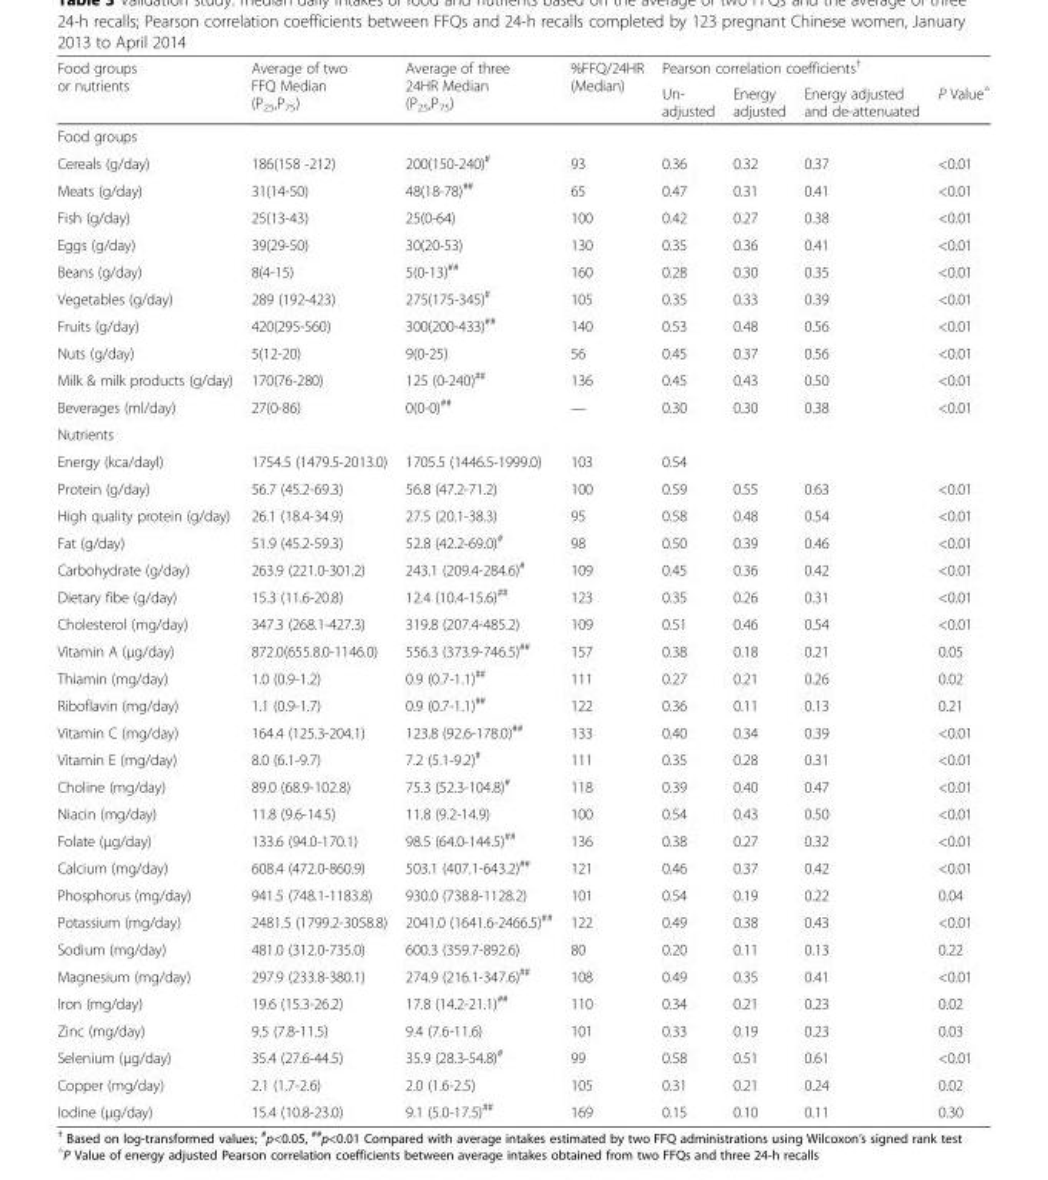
<table><thead><tr><td rowspan="2">Food groups or nutrients</td><td rowspan="2">Average of two FFQ Median (P<sub>25</sub>,P<sub>75</sub>)</td><td rowspan="2">Average of three 24HR Median (P<sub>25</sub>,P<sub>75</sub>)</td><td rowspan="2">%FFQ/24HR (Median)</td><td colspan="3">Pearson correlation coefficients<sup>†</sup></td><td rowspan="2">P Value<sup>△</sup></td></tr><tr><td>Un- adjusted</td><td>Energy adjusted</td><td>Energy adjusted and de-attenuated</td></tr></thead><tbody><tr><td colspan="8">Food groups</td></tr><tr><td>Cereals (g/day)</td><td>186(158 -212)</td><td>200(150-240)<sup>#</sup></td><td>93</td><td>0.36</td><td>0.32</td><td>0.37</td><td>&lt;0.01</td></tr><tr><td>Meats (g/day)</td><td>31(14-50)</td><td>48(18-78)<sup>##</sup></td><td>65</td><td>0.47</td><td>0.31</td><td>0.41</td><td>&lt;0.01</td></tr><tr><td>Fish (g/day)</td><td>25(13-43)</td><td>25(0-64)</td><td>100</td><td>0.42</td><td>0.27</td><td>0.38</td><td>&lt;0.01</td></tr><tr><td>Eggs (g/day)</td><td>39(29-50)</td><td>30(20-53)</td><td>130</td><td>0.35</td><td>0.36</td><td>0.41</td><td>&lt;0.01</td></tr><tr><td>Beans (g/day)</td><td>8(4-15)</td><td>5(0-13)<sup>##</sup></td><td>160</td><td>0.28</td><td>0.30</td><td>0.35</td><td>&lt;0.01</td></tr><tr><td>Vegetables (g/day)</td><td>289 (192-423)</td><td>275(175-345)<sup>#</sup></td><td>105</td><td>0.35</td><td>0.33</td><td>0.39</td><td>&lt;0.01</td></tr><tr><td>Fruits (g/day)</td><td>420(295-560)</td><td>300(200-433)<sup>##</sup></td><td>140</td><td>0.53</td><td>0.48</td><td>0.56</td><td>&lt;0.01</td></tr><tr><td>Nuts (g/day)</td><td>5(12-20)</td><td>9(0-25)</td><td>56</td><td>0.45</td><td>0.37</td><td>0.56</td><td>&lt;0.01</td></tr><tr><td>Milk &amp; milk products (g/day)</td><td>170(76-280)</td><td>125 (0-240)<sup>##</sup></td><td>136</td><td>0.45</td><td>0.43</td><td>0.50</td><td>&lt;0.01</td></tr><tr><td>Beverages (ml/day)</td><td>27(0-86)</td><td>0(0-0)<sup>##</sup></td><td>—</td><td>0.30</td><td>0.30</td><td>0.38</td><td>&lt;0.01</td></tr><tr><td colspan="8">Nutrients</td></tr><tr><td>Energy (kca/dayl)</td><td>1754.5 (1479.5-2013.0)</td><td>1705.5 (1446.5-1999.0)</td><td>103</td><td>0.54</td><td></td><td></td><td></td></tr><tr><td>Protein (g/day)</td><td>56.7 (45.2-69.3)</td><td>56.8 (47.2-71.2)</td><td>100</td><td>0.59</td><td>0.55</td><td>0.63</td><td>&lt;0.01</td></tr><tr><td>High quality protein (g/day)</td><td>26.1 (18.4-34.9)</td><td>27.5 (20.1-38.3)</td><td>95</td><td>0.58</td><td>0.48</td><td>0.54</td><td>&lt;0.01</td></tr><tr><td>Fat (g/day)</td><td>51.9 (45.2-59.3)</td><td>52.8 (42.2-69.0)<sup>#</sup></td><td>98</td><td>0.50</td><td>0.39</td><td>0.46</td><td>&lt;0.01</td></tr><tr><td>Carbohydrate (g/day)</td><td>263.9 (221.0-301.2)</td><td>243.1 (209.4-284.6)<sup>#</sup></td><td>109</td><td>0.45</td><td>0.36</td><td>0.42</td><td>&lt;0.01</td></tr><tr><td>Dietary fibe (g/day)</td><td>15.3 (11.6-20.8)</td><td>12.4 (10.4-15.6)<sup>##</sup></td><td>123</td><td>0.35</td><td>0.26</td><td>0.31</td><td>&lt;0.01</td></tr><tr><td>Cholesterol (mg/day)</td><td>347.3 (268.1-427.3)</td><td>319.8 (207.4-485.2)</td><td>109</td><td>0.51</td><td>0.46</td><td>0.54</td><td>&lt;0.01</td></tr><tr><td>Vitamin A (μg/day)</td><td>872.0(655.8.0-1146.0)</td><td>556.3 (373.9-746.5)<sup>##</sup></td><td>157</td><td>0.38</td><td>0.18</td><td>0.21</td><td>0.05</td></tr><tr><td>Thiamin (mg/day)</td><td>1.0 (0.9-1.2)</td><td>0.9 (0.7-1.1)<sup>##</sup></td><td>111</td><td>0.27</td><td>0.21</td><td>0.26</td><td>0.02</td></tr><tr><td>Riboflavin (mg/day)</td><td>1.1 (0.9-1.7)</td><td>0.9 (0.7-1.1)<sup>##</sup></td><td>122</td><td>0.36</td><td>0.11</td><td>0.13</td><td>0.21</td></tr><tr><td>Vitamin C (mg/day)</td><td>164.4 (125.3-204.1)</td><td>123.8 (92.6-178.0)<sup>##</sup></td><td>133</td><td>0.40</td><td>0.34</td><td>0.39</td><td>&lt;0.01</td></tr><tr><td>Vitamin E (mg/day)</td><td>8.0 (6.1-9.7)</td><td>7.2 (5.1-9.2)<sup>#</sup></td><td>111</td><td>0.35</td><td>0.28</td><td>0.31</td><td>&lt;0.01</td></tr><tr><td>Choline (mg/day)</td><td>89.0 (68.9-102.8)</td><td>75.3 (52.3-104.8)<sup>#</sup></td><td>118</td><td>0.39</td><td>0.40</td><td>0.47</td><td>&lt;0.01</td></tr><tr><td>Niacin (mg/day)</td><td>11.8 (9.6-14.5)</td><td>11.8 (9.2-14.9)</td><td>100</td><td>0.54</td><td>0.43</td><td>0.50</td><td>&lt;0.01</td></tr><tr><td>Folate (μg/day)</td><td>133.6 (94.0-170.1)</td><td>98.5 (64.0-144.5)<sup>##</sup></td><td>136</td><td>0.38</td><td>0.27</td><td>0.32</td><td>&lt;0.01</td></tr><tr><td>Calcium (mg/day)</td><td>608.4 (472.0-860.9)</td><td>503.1 (407.1-643.2)<sup>##</sup></td><td>121</td><td>0.46</td><td>0.37</td><td>0.42</td><td>&lt;0.01</td></tr><tr><td>Phosphorus (mg/day)</td><td>941.5 (748.1-1183.8)</td><td>930.0 (738.8-1128.2)</td><td>101</td><td>0.54</td><td>0.19</td><td>0.22</td><td>0.04</td></tr><tr><td>Potassium (mg/day)</td><td>2481.5 (1799.2-3058.8)</td><td>2041.0 (1641.6-2466.5)<sup>##</sup></td><td>122</td><td>0.49</td><td>0.38</td><td>0.43</td><td>&lt;0.01</td></tr><tr><td>Sodium (mg/day)</td><td>481.0 (312.0-735.0)</td><td>600.3 (359.7-892.6)</td><td>80</td><td>0.20</td><td>0.11</td><td>0.13</td><td>0.22</td></tr><tr><td>Magnesium (mg/day)</td><td>297.9 (233.8-380.1)</td><td>274.9 (216.1-347.6)<sup>##</sup></td><td>108</td><td>0.49</td><td>0.35</td><td>0.41</td><td>&lt;0.01</td></tr><tr><td>Iron (mg/day)</td><td>19.6 (15.3-26.2)</td><td>17.8 (14.2-21.1)<sup>##</sup></td><td>110</td><td>0.34</td><td>0.21</td><td>0.23</td><td>0.02</td></tr><tr><td>Zinc (mg/day)</td><td>9.5 (7.8-11.5)</td><td>9.4 (7.6-11.6)</td><td>101</td><td>0.33</td><td>0.19</td><td>0.23</td><td>0.03</td></tr><tr><td>Selenium (μg/day)</td><td>35.4 (27.6-44.5)</td><td>35.9 (28.3-54.8)<sup>#</sup></td><td>99</td><td>0.58</td><td>0.51</td><td>0.61</td><td>&lt;0.01</td></tr><tr><td>Copper (mg/day)</td><td>2.1 (1.7-2.6)</td><td>2.0 (1.6-2.5)</td><td>105</td><td>0.31</td><td>0.21</td><td>0.24</td><td>0.02</td></tr><tr><td>Iodine (μg/day)</td><td>15.4 (10.8-23.0)</td><td>9.1 (5.0-17.5)<sup>##</sup></td><td>169</td><td>0.15</td><td>0.10</td><td>0.11</td><td>0.30</td></tr></tbody></table>